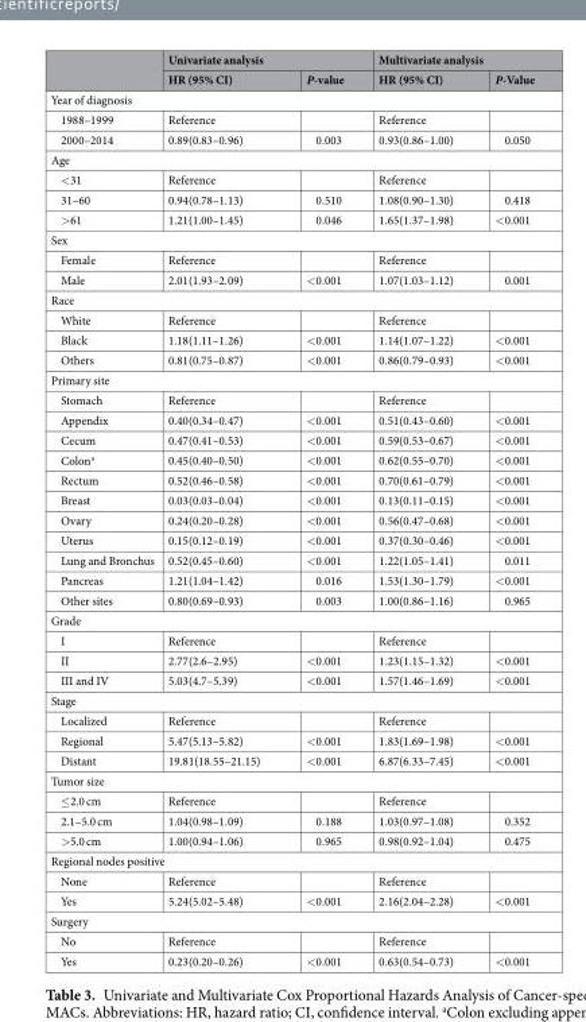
<table><thead><tr><td rowspan="2"></td><td colspan="2">Univariate analysis</td><td colspan="2">Multivariate analysis</td></tr><tr><td>HR (95% CI)</td><td>P-value</td><td>HR (95% CI)</td><td>P-Value</td></tr></thead><tbody><tr><td colspan="5">Year of diagnosis</td></tr><tr><td>1988–1999</td><td>Reference</td><td></td><td>Reference</td><td></td></tr><tr><td>2000–2014</td><td>0.89(0.83–0.96)</td><td>0.003</td><td>0.93(0.86–1.00)</td><td>0.050</td></tr><tr><td colspan="5">Age</td></tr><tr><td>&lt;31</td><td>Reference</td><td></td><td>Reference</td><td></td></tr><tr><td>31–60</td><td>0.94(0.78–1.13)</td><td>0.510</td><td>1.08(0.90–1.30)</td><td>0.418</td></tr><tr><td>&gt;61</td><td>1.21(1.00–1.45)</td><td>0.046</td><td>1.65(1.37–1.98)</td><td>&lt;0.001</td></tr><tr><td colspan="5">Sex</td></tr><tr><td>Female</td><td>Reference</td><td></td><td>Reference</td><td></td></tr><tr><td>Male</td><td>2.01(1.93–2.09)</td><td>&lt;0.001</td><td>1.07(1.03–1.12)</td><td>0.001</td></tr><tr><td colspan="5">Race</td></tr><tr><td>White</td><td>Reference</td><td></td><td>Reference</td><td></td></tr><tr><td>Black</td><td>1.18(1.11–1.26)</td><td>&lt;0.001</td><td>1.14(1.07–1.22)</td><td>&lt;0.001</td></tr><tr><td>Others</td><td>0.81(0.75–0.87)</td><td>&lt;0.001</td><td>0.86(0.79–0.93)</td><td>&lt;0.001</td></tr><tr><td colspan="5">Primary site</td></tr><tr><td>Stomach</td><td>Reference</td><td></td><td>Reference</td><td></td></tr><tr><td>Appendix</td><td>0.40(0.34–0.47)</td><td>&lt;0.001</td><td>0.51(0.43–0.60)</td><td>&lt;0.001</td></tr><tr><td>Cecum</td><td>0.47(0.41–0.53)</td><td>&lt;0.001</td><td>0.59(0.53–0.67)</td><td>&lt;0.001</td></tr><tr><td>Colon<sup>a</sup></td><td>0.45(0.40–0.50)</td><td>&lt;0.001</td><td>0.62(0.55–0.70)</td><td>&lt;0.001</td></tr><tr><td>Rectum</td><td>0.52(0.46–0.58)</td><td>&lt;0.001</td><td>0.70(0.61–0.79)</td><td>&lt;0.001</td></tr><tr><td>Breast</td><td>0.03(0.03–0.04)</td><td>&lt;0.001</td><td>0.13(0.11–0.15)</td><td>&lt;0.001</td></tr><tr><td>Ovary</td><td>0.24(0.20–0.28)</td><td>&lt;0.001</td><td>0.56(0.47–0.68)</td><td>&lt;0.001</td></tr><tr><td>Uterus</td><td>0.15(0.12–0.19)</td><td>&lt;0.001</td><td>0.37(0.30–0.46)</td><td>&lt;0.001</td></tr><tr><td>Lung and Bronchus</td><td>0.52(0.45–0.60)</td><td>&lt;0.001</td><td>1.22(1.05–1.41)</td><td>0.011</td></tr><tr><td>Pancreas</td><td>1.21(1.04–1.42)</td><td>0.016</td><td>1.53(1.30–1.79)</td><td>&lt;0.001</td></tr><tr><td>Other sites</td><td>0.80(0.69–0.93)</td><td>0.003</td><td>1.00(0.86–1.16)</td><td>0.965</td></tr><tr><td colspan="5">Grade</td></tr><tr><td>I</td><td>Reference</td><td></td><td>Reference</td><td></td></tr><tr><td>II</td><td>2.77(2.6–2.95)</td><td>&lt;0.001</td><td>1.23(1.15–1.32)</td><td>&lt;0.001</td></tr><tr><td>III and IV</td><td>5.03(4.7–5.39)</td><td>&lt;0.001</td><td>1.57(1.46–1.69)</td><td>&lt;0.001</td></tr><tr><td colspan="5">Stage</td></tr><tr><td>Localized</td><td>Reference</td><td></td><td>Reference</td><td></td></tr><tr><td>Regional</td><td>5.47(5.13–5.82)</td><td>&lt;0.001</td><td>1.83(1.69–1.98)</td><td>&lt;0.001</td></tr><tr><td>Distant</td><td>19.81(18.55–21.15)</td><td>&lt;0.001</td><td>6.87(6.33–7.45)</td><td>&lt;0.001</td></tr><tr><td colspan="5">Tumor size</td></tr><tr><td>≤2.0 cm</td><td>Reference</td><td></td><td>Reference</td><td></td></tr><tr><td>2.1–5.0 cm</td><td>1.04(0.98–1.09)</td><td>0.188</td><td>1.03(0.97–1.08)</td><td>0.352</td></tr><tr><td>&gt;5.0 cm</td><td>1.00(0.94–1.06)</td><td>0.965</td><td>0.98(0.92–1.04)</td><td>0.475</td></tr><tr><td colspan="5">Regional nodes positive</td></tr><tr><td>None</td><td>Reference</td><td></td><td>Reference</td><td></td></tr><tr><td>Yes</td><td>5.24(5.02–5.48)</td><td>&lt;0.001</td><td>2.16(2.04–2.28)</td><td>&lt;0.001</td></tr><tr><td colspan="5">Surgery</td></tr><tr><td>No</td><td>Reference</td><td></td><td>Reference</td><td></td></tr><tr><td>Yes</td><td>0.23(0.20–0.26)</td><td>&lt;0.001</td><td>0.63(0.54–0.73)</td><td>&lt;0.001</td></tr></tbody></table>